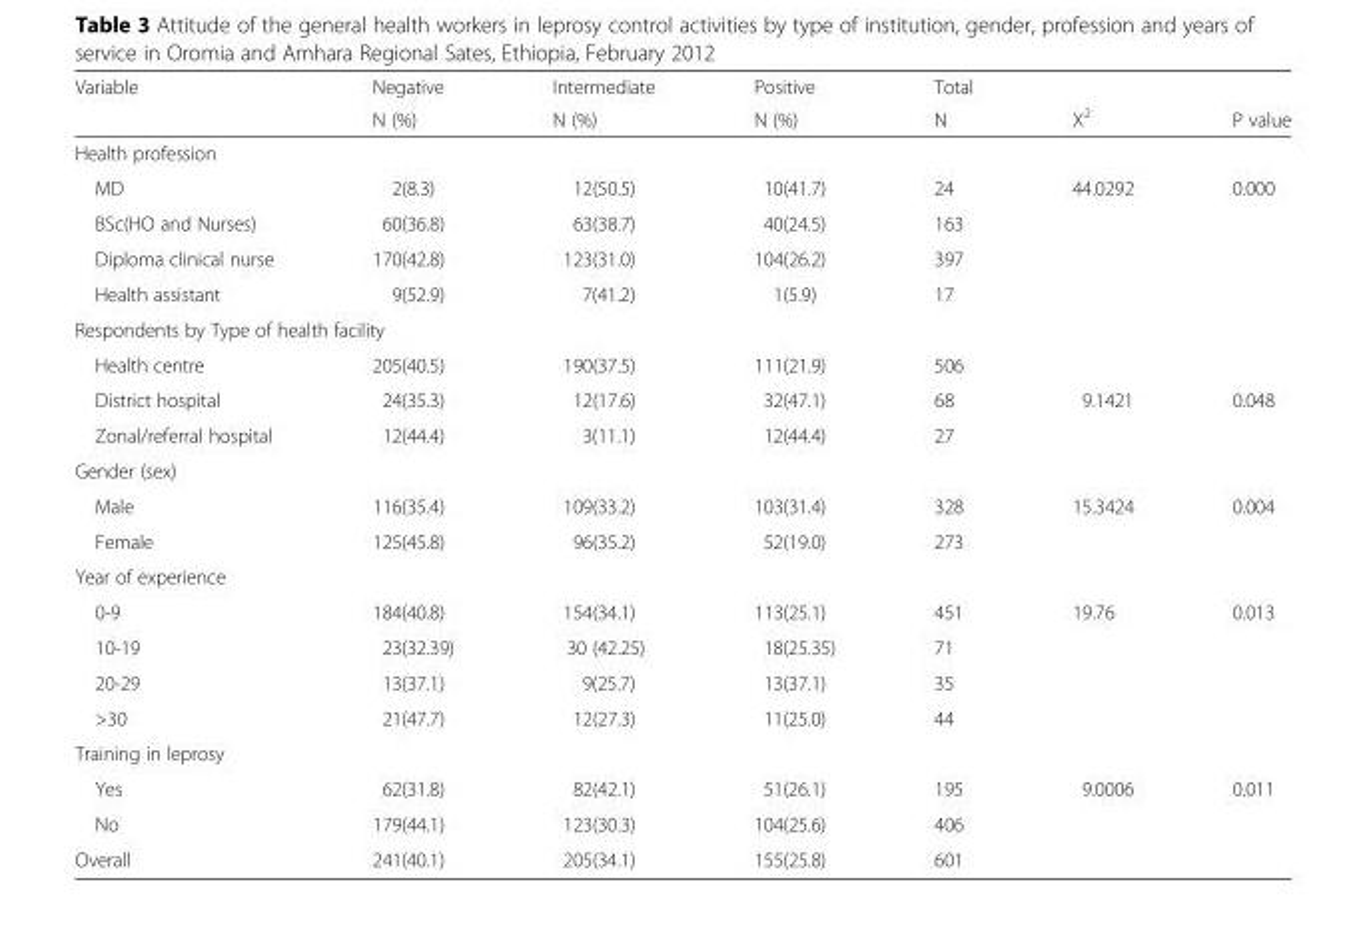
<table><thead><tr><td rowspan="2">Variable</td><td rowspan="2">Negative N (%)</td><td rowspan="2">Intermediate N (%)</td><td rowspan="2">Positive N (%)</td><td rowspan="2">Total N</td><td rowspan="2">X<sup>2</sup></td><td rowspan="2">P value</td></tr><tr></tr></thead><tbody><tr><td colspan="7">Health profession</td></tr><tr><td>MD</td><td>2(8.3)</td><td>12(50.5)</td><td>10(41.7)</td><td>24</td><td rowspan="4">44.0292</td><td rowspan="4">0.000</td></tr><tr><td>BSc(HO and Nurses)</td><td>60(36.8)</td><td>63(38.7)</td><td>40(24.5)</td><td>163</td></tr><tr><td>Diploma clinical nurse</td><td>170(42.8)</td><td>123(31.0)</td><td>104(26.2)</td><td>397</td></tr><tr><td>Health assistant</td><td>9(52.9)</td><td>7(41.2)</td><td>1(5.9)</td><td>17</td></tr><tr><td colspan="7">Respondents by Type of health facility</td></tr><tr><td>Health centre</td><td>205(40.5)</td><td>190(37.5)</td><td>111(21.9)</td><td>506</td><td></td><td></td></tr><tr><td>District hospital</td><td>24(35.3)</td><td>12(17.6)</td><td>32(47.1)</td><td>68</td><td rowspan="2">9.1421</td><td rowspan="2">0.048</td></tr><tr><td>Zonal/referral hospital</td><td>12(44.4)</td><td>3(11.1)</td><td>12(44.4)</td><td>27</td></tr><tr><td colspan="7">Gender (sex)</td></tr><tr><td>Male</td><td>116(35.4)</td><td>109(33.2)</td><td>103(31.4)</td><td>328</td><td rowspan="2">15.3424</td><td rowspan="2">0.004</td></tr><tr><td>Female</td><td>125(45.8)</td><td>96(35.2)</td><td>52(19.0)</td><td>273</td></tr><tr><td colspan="7">Year of experience</td></tr><tr><td>0-9</td><td>184(40.8)</td><td>154(34.1)</td><td>113(25.1)</td><td>451</td><td rowspan="4">19.76</td><td rowspan="4">0.013</td></tr><tr><td>10-19</td><td>23(32.39)</td><td>30 (42.25)</td><td>18(25.35)</td><td>71</td></tr><tr><td>20-29</td><td>13(37.1)</td><td>9(25.7)</td><td>13(37.1)</td><td>35</td></tr><tr><td>&gt;30</td><td>21(47.7)</td><td>12(27.3)</td><td>11(25.0)</td><td>44</td></tr><tr><td colspan="7">Training in leprosy</td></tr><tr><td>Yes</td><td>62(31.8)</td><td>82(42.1)</td><td>51(26.1)</td><td>195</td><td rowspan="2">9.0006</td><td rowspan="2">0.011</td></tr><tr><td>No</td><td>179(44.1)</td><td>123(30.3)</td><td>104(25.6)</td><td>406</td></tr><tr><td>Overall</td><td>241(40.1)</td><td>205(34.1)</td><td>155(25.8)</td><td>601</td><td colspan="2"></td></tr></tbody></table>